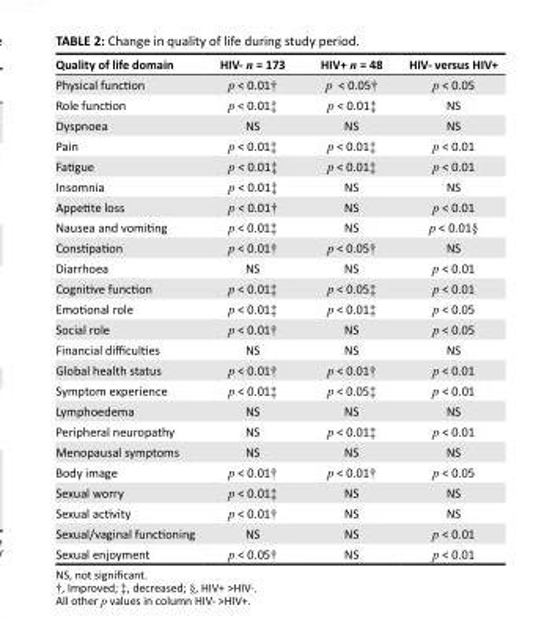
<table><thead><tr><td>Quality of life domain</td><td>HIV- n = 173</td><td>HIV+ n = 48</td><td>HIV- versus HIV+</td></tr></thead><tbody><tr><td>Physical function</td><td>p &lt; 0.01†</td><td>p &lt; 0.05†</td><td>p &lt; 0.05</td></tr><tr><td>Role function</td><td>p &lt; 0.01‡</td><td>p &lt; 0.01‡</td><td>NS</td></tr><tr><td>Dyspnoea</td><td>NS</td><td>NS</td><td>NS</td></tr><tr><td>Pain</td><td>p &lt; 0.01‡</td><td>p &lt; 0.01‡</td><td>p &lt; 0.01</td></tr><tr><td>Fatigue</td><td>p &lt; 0.01‡</td><td>p &lt; 0.01‡</td><td>p &lt; 0.01</td></tr><tr><td>Insomnia</td><td>p &lt; 0.01‡</td><td>NS</td><td>NS</td></tr><tr><td>Appetite loss</td><td>p &lt; 0.01†</td><td>NS</td><td>p &lt; 0.01</td></tr><tr><td>Nausea and vomiting</td><td>p &lt; 0.01‡</td><td>NS</td><td>p &lt; 0.01§</td></tr><tr><td>Constipation</td><td>p &lt; 0.01†</td><td>p &lt; 0.05†</td><td>NS</td></tr><tr><td>Diarrhoea</td><td>NS</td><td>NS</td><td>p &lt; 0.01</td></tr><tr><td>Cognitive function</td><td>p &lt; 0.01‡</td><td>p &lt; 0.05‡</td><td>p &lt; 0.01</td></tr><tr><td>Emotional role</td><td>p &lt; 0.01‡</td><td>p &lt; 0.01‡</td><td>p &lt; 0.05</td></tr><tr><td>Social role</td><td>p &lt; 0.01†</td><td>NS</td><td>p &lt; 0.05</td></tr><tr><td>Financial difficulties</td><td>NS</td><td>NS</td><td>NS</td></tr><tr><td>Global health status</td><td>p &lt; 0.01†</td><td>p &lt; 0.01†</td><td>p &lt; 0.01</td></tr><tr><td>Symptom experience</td><td>p &lt; 0.01‡</td><td>p &lt; 0.05‡</td><td>p &lt; 0.01</td></tr><tr><td>Lymphoedema</td><td>NS</td><td>NS</td><td>NS</td></tr><tr><td>Peripheral neuropathy</td><td>NS</td><td>p &lt; 0.01‡</td><td>p &lt; 0.01</td></tr><tr><td>Menopausal symptoms</td><td>NS</td><td>NS</td><td>NS</td></tr><tr><td>Body image</td><td>p &lt; 0.01†</td><td>p &lt; 0.01†</td><td>p &lt; 0.05</td></tr><tr><td>Sexual worry</td><td>p &lt; 0.01‡</td><td>NS</td><td>NS</td></tr><tr><td>Sexual activity</td><td>p &lt; 0.01†</td><td>NS</td><td>NS</td></tr><tr><td>Sexual/vaginal functioning</td><td>NS</td><td>NS</td><td>p &lt; 0.01</td></tr><tr><td>Sexual enjoyment</td><td>p &lt; 0.05†</td><td>NS</td><td>p &lt; 0.01</td></tr></tbody></table>